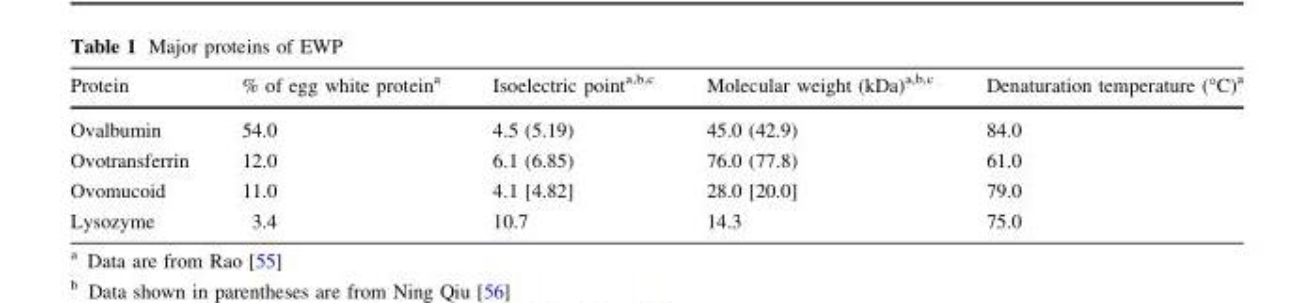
<table><thead><tr><td>Protein</td><td>% of egg white protein<sup>a</sup></td><td>Isoelectric point<sup>a,b,c</sup></td><td>Molecular weight (kDa)<sup>a,b,c</sup></td><td>Denaturation temperature (°C)<sup>a</sup></td></tr></thead><tbody><tr><td>Ovalbumin</td><td>54.0</td><td>4.5 (5.19)</td><td>45.0 (42.9)</td><td>84.0</td></tr><tr><td>Ovotransferrin</td><td>12.0</td><td>6.1 (6.85)</td><td>76.0 (77.8)</td><td>61.0</td></tr><tr><td>Ovomucoid</td><td>11.0</td><td>4.1 [4.82]</td><td>28.0 [20.0]</td><td>79.0</td></tr><tr><td>Lysozyme</td><td>3.4</td><td>10.7</td><td>14.3</td><td>75.0</td></tr></tbody></table>